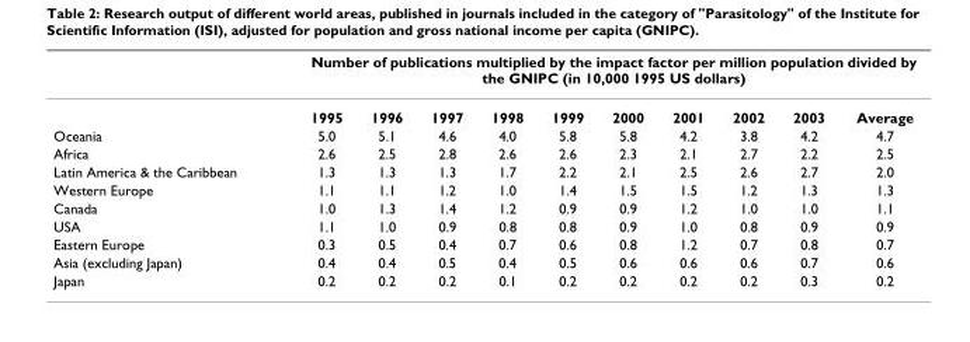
<table><thead><tr><td rowspan="2"></td><td colspan="10">Number of publications multiplied by the impact factor per million population divided by the GNIPC (in 10,000 1995 US dollars)</td></tr><tr><td>1995</td><td>1996</td><td>1997</td><td>1998</td><td>1999</td><td>2000</td><td>2001</td><td>2002</td><td>2003</td><td>Average</td></tr></thead><tbody><tr><td>Oceania</td><td>5.0</td><td>5.1</td><td>4.6</td><td>4.0</td><td>5.8</td><td>5.8</td><td>4.2</td><td>3.8</td><td>4.2</td><td>4.7</td></tr><tr><td>Africa</td><td>2.6</td><td>2.5</td><td>2.8</td><td>2.6</td><td>2.6</td><td>2.3</td><td>2.1</td><td>2.7</td><td>2.2</td><td>2.5</td></tr><tr><td>Latin America &amp; the Caribbean</td><td>1.3</td><td>1.3</td><td>1.3</td><td>1.7</td><td>2.2</td><td>2.1</td><td>2.5</td><td>2.6</td><td>2.7</td><td>2.0</td></tr><tr><td>Western Europe</td><td>1.1</td><td>1.1</td><td>1.2</td><td>1.0</td><td>1.4</td><td>1.5</td><td>1.5</td><td>1.2</td><td>1.3</td><td>1.3</td></tr><tr><td>Canada</td><td>1.0</td><td>1.3</td><td>1.4</td><td>1.2</td><td>0.9</td><td>0.9</td><td>1.2</td><td>1.0</td><td>1.0</td><td>1.1</td></tr><tr><td>USA</td><td>1.1</td><td>1.0</td><td>0.9</td><td>0.8</td><td>0.8</td><td>0.9</td><td>1.0</td><td>0.8</td><td>0.9</td><td>0.9</td></tr><tr><td>Eastern Europe</td><td>0.3</td><td>0.5</td><td>0.4</td><td>0.7</td><td>0.6</td><td>0.8</td><td>1.2</td><td>0.7</td><td>0.8</td><td>0.7</td></tr><tr><td>Asia (excluding Japan)</td><td>0.4</td><td>0.4</td><td>0.5</td><td>0.4</td><td>0.5</td><td>0.6</td><td>0.6</td><td>0.6</td><td>0.7</td><td>0.6</td></tr><tr><td>Japan</td><td>0.2</td><td>0.2</td><td>0.2</td><td>0.1</td><td>0.2</td><td>0.2</td><td>0.2</td><td>0.2</td><td>0.3</td><td>0.2</td></tr></tbody></table>